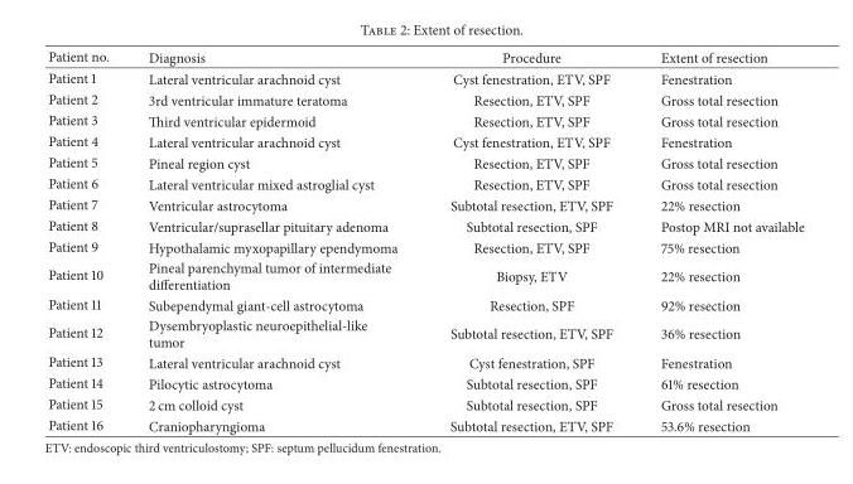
<table><thead><tr><td>Patient no.</td><td>Diagnosis</td><td>Procedure</td><td>Extent of resection</td></tr></thead><tbody><tr><td>Patient 1</td><td>Lateral ventricular arachnoid cyst</td><td>Cyst fenestration, ETV, SPF</td><td>Fenestration</td></tr><tr><td>Patient 2</td><td>3rd ventricular immature teratoma</td><td>Resection, ETV, SPF</td><td>Gross total resection</td></tr><tr><td>Patient 3</td><td>Third ventricular epidermoid</td><td>Resection, ETV, SPF</td><td>Gross total resection</td></tr><tr><td>Patient 4</td><td>Lateral ventricular arachnoid cyst</td><td>Cyst fenestration, ETV, SPF</td><td>Fenestration</td></tr><tr><td>Patient 5</td><td>Pineal region cyst</td><td>Resection, ETV, SPF</td><td>Gross total resection</td></tr><tr><td>Patient 6</td><td>Lateral ventricular mixed astroglial cyst</td><td>Resection, ETV, SPF</td><td>Gross total resection</td></tr><tr><td>Patient 7</td><td>Ventricular astrocytoma</td><td>Subtotal resection, ETV, SPF</td><td>22% resection</td></tr><tr><td>Patient 8</td><td>Ventricular/suprasellar pituitary adenoma</td><td>Subtotal resection, SPF</td><td>Postop MRI not available</td></tr><tr><td>Patient 9</td><td>Hypothalamic myxopapillary ependymoma</td><td>Resection, ETV, SPF</td><td>75% resection</td></tr><tr><td>Patient 10</td><td>Pineal parenchymal tumor of intermediate differentiation</td><td>Biopsy, ETV</td><td>22% resection</td></tr><tr><td>Patient 11</td><td>Subependymal giant-cell astrocytoma</td><td>Resection, SPF</td><td>92% resection</td></tr><tr><td>Patient 12</td><td>Dysembryoplastic neuroepithelial-like tumor</td><td>Subtotal resection, ETV, SPF</td><td>36% resection</td></tr><tr><td>Patient 13</td><td>Lateral ventricular arachnoid cyst</td><td>Cyst fenestration, SPF</td><td>Fenestration</td></tr><tr><td>Patient 14</td><td>Pilocytic astrocytoma</td><td>Subtotal resection, SPF</td><td>61% resection</td></tr><tr><td>Patient 15</td><td>2 cm colloid cyst</td><td>Subtotal resection, SPF</td><td>Gross total resection</td></tr><tr><td>Patient 16</td><td>Craniopharyngioma</td><td>Subtotal resection, ETV, SPF</td><td>53.6% resection</td></tr></tbody></table>